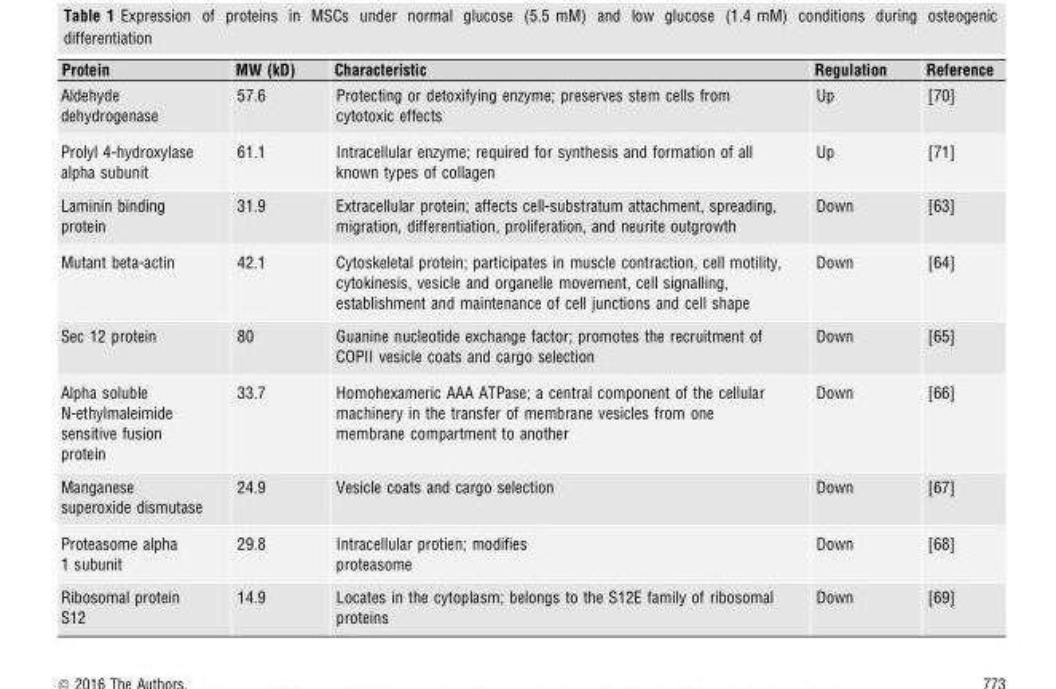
<table><thead><tr><td>Protein</td><td>MW (kD)</td><td>Characteristic</td><td>Regulation</td><td>Reference</td></tr></thead><tbody><tr><td>Aldehyde dehydrogenase</td><td>57.6</td><td>Protecting or detoxifying enzyme; preserves stem cells from cytotoxic effects</td><td>Up</td><td>[70]</td></tr><tr><td>Prolyl 4-hydroxylase alpha subunit</td><td>61.1</td><td>Intracellular enzyme; required for synthesis and formation of all known types of collagen</td><td>Up</td><td>[71]</td></tr><tr><td>Laminin binding protein</td><td>31.9</td><td>Extracellular protein; affects cell-substratum attachment, spreading, migration, differentiation, proliferation, and neurite outgrowth</td><td>Down</td><td>[63]</td></tr><tr><td>Mutant beta-actin</td><td>42.1</td><td>Cytoskeletal protein; participates in muscle contraction, cell motility, cytokinesis, vesicle and organelle movement, cell signalling, establishment and maintenance of cell junctions and cell shape</td><td>Down</td><td>[64]</td></tr><tr><td>Sec 12 protein</td><td>80</td><td>Guanine nucleotide exchange factor; promotes the recruitment of COPII vesicle coats and cargo selection</td><td>Down</td><td>[65]</td></tr><tr><td>Alpha soluble N-ethylmaleimide sensitive fusion protein</td><td>33.7</td><td>Homohexameric AAA ATPase; a central component of the cellular machinery in the transfer of membrane vesicles from one membrane compartment to another</td><td>Down</td><td>[66]</td></tr><tr><td>Manganese superoxide dismutase</td><td>24.9</td><td>Vesicle coats and cargo selection</td><td>Down</td><td>[67]</td></tr><tr><td>Proteasome alpha 1 subunit</td><td>29.8</td><td>Intracellular protien; modifies proteasome</td><td>Down</td><td>[68]</td></tr><tr><td>Ribosomal protein S12</td><td>14.9</td><td>Locates in the cytoplasm; belongs to the S12E family of ribosomal proteins</td><td>Down</td><td>[69]</td></tr></tbody></table>